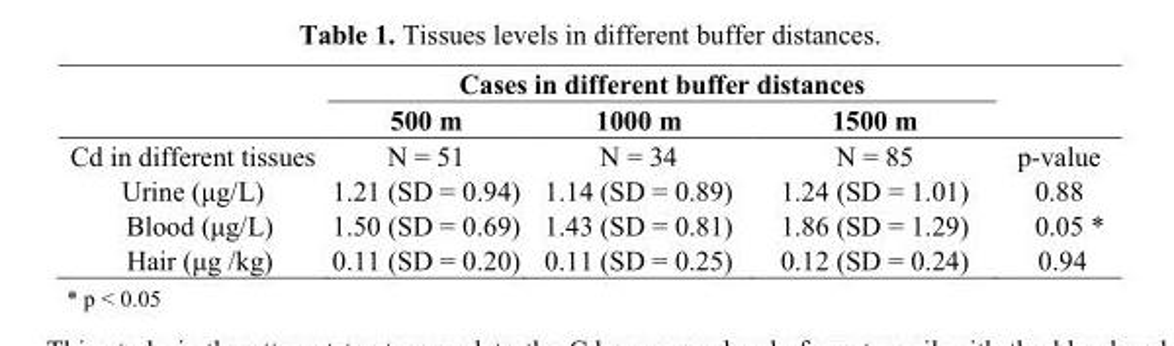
<table><thead><tr><td rowspan="3">Cd in different tissues</td><td colspan="3">Cases in different buffer distances</td><td rowspan="3">p-value</td></tr><tr><td rowspan="2">500 m N = 51</td><td rowspan="2">1000 m N = 34</td><td rowspan="2">1500 m N = 85</td></tr><tr></tr></thead><tbody><tr><td>Urine (µg/L)</td><td>1.21 (SD = 0.94)</td><td>1.14 (SD = 0.89)</td><td>1.24 (SD = 1.01)</td><td>0.88</td></tr><tr><td>Blood (µg/L)</td><td>1.50 (SD = 0.69)</td><td>1.43 (SD = 0.81)</td><td>1.86 (SD = 1.29)</td><td>0.05 *</td></tr><tr><td>Hair (µg /kg)</td><td>0.11 (SD = 0.20)</td><td>0.11 (SD = 0.25)</td><td>0.12 (SD = 0.24)</td><td>0.94</td></tr></tbody></table>